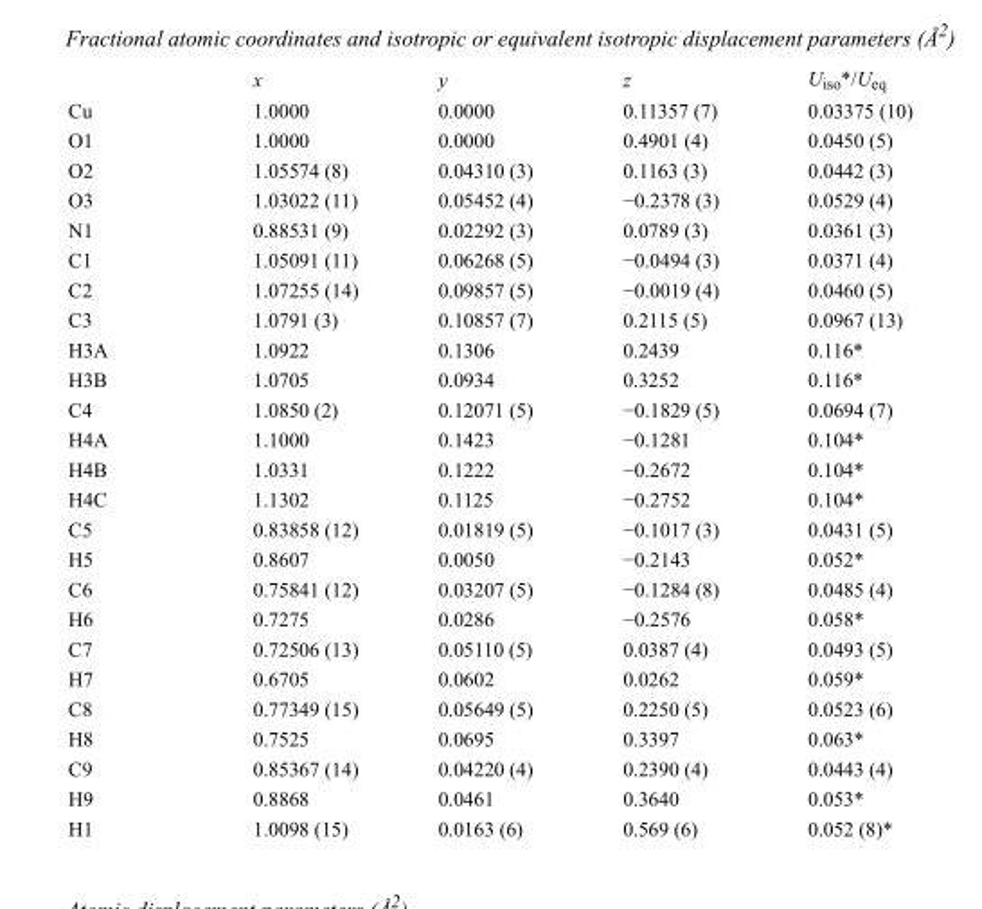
<table><thead><tr><td></td><td>x</td><td>y</td><td>z</td><td>U<sub>iso</sub>*/U<sub>eq</sub></td></tr></thead><tbody><tr><td>Cu</td><td>1.0000</td><td>0.0000</td><td>0.11357 (7)</td><td>0.03375 (10)</td></tr><tr><td>O1</td><td>1.0000</td><td>0.0000</td><td>0.4901 (4)</td><td>0.0450 (5)</td></tr><tr><td>O2</td><td>1.05574 (8)</td><td>0.04310 (3)</td><td>0.1163 (3)</td><td>0.0442 (3)</td></tr><tr><td>O3</td><td>1.03022 (11)</td><td>0.05452 (4)</td><td>−0.2378 (3)</td><td>0.0529 (4)</td></tr><tr><td>N1</td><td>0.88531 (9)</td><td>0.02292 (3)</td><td>0.0789 (3)</td><td>0.0361 (3)</td></tr><tr><td>C1</td><td>1.05091 (11)</td><td>0.06268 (5)</td><td>−0.0494 (3)</td><td>0.0371 (4)</td></tr><tr><td>C2</td><td>1.07255 (14)</td><td>0.09857 (5)</td><td>−0.0019 (4)</td><td>0.0460 (5)</td></tr><tr><td>C3</td><td>1.0791 (3)</td><td>0.10857 (7)</td><td>0.2115 (5)</td><td>0.0967 (13)</td></tr><tr><td>H3A</td><td>1.0922</td><td>0.1306</td><td>0.2439</td><td>0.116*</td></tr><tr><td>H3B</td><td>1.0705</td><td>0.0934</td><td>0.3252</td><td>0.116*</td></tr><tr><td>C4</td><td>1.0850 (2)</td><td>0.12071 (5)</td><td>−0.1829 (5)</td><td>0.0694 (7)</td></tr><tr><td>H4A</td><td>1.1000</td><td>0.1423</td><td>−0.1281</td><td>0.104*</td></tr><tr><td>H4B</td><td>1.0331</td><td>0.1222</td><td>−0.2672</td><td>0.104*</td></tr><tr><td>H4C</td><td>1.1302</td><td>0.1125</td><td>−0.2752</td><td>0.104*</td></tr><tr><td>C5</td><td>0.83858 (12)</td><td>0.01819 (5)</td><td>−0.1017 (3)</td><td>0.0431 (5)</td></tr><tr><td>H5</td><td>0.8607</td><td>0.0050</td><td>−0.2143</td><td>0.052*</td></tr><tr><td>C6</td><td>0.75841 (12)</td><td>0.03207 (5)</td><td>−0.1284 (8)</td><td>0.0485 (4)</td></tr><tr><td>H6</td><td>0.7275</td><td>0.0286</td><td>−0.2576</td><td>0.058*</td></tr><tr><td>C7</td><td>0.72506 (13)</td><td>0.05110 (5)</td><td>0.0387 (4)</td><td>0.0493 (5)</td></tr><tr><td>H7</td><td>0.6705</td><td>0.0602</td><td>0.0262</td><td>0.059*</td></tr><tr><td>C8</td><td>0.77349 (15)</td><td>0.05649 (5)</td><td>0.2250 (5)</td><td>0.0523 (6)</td></tr><tr><td>H8</td><td>0.7525</td><td>0.0695</td><td>0.3397</td><td>0.063*</td></tr><tr><td>C9</td><td>0.85367 (14)</td><td>0.04220 (4)</td><td>0.2390 (4)</td><td>0.0443 (4)</td></tr><tr><td>H9</td><td>0.8868</td><td>0.0461</td><td>0.3640</td><td>0.053*</td></tr><tr><td>H1</td><td>1.0098 (15)</td><td>0.0163 (6)</td><td>0.569 (6)</td><td>0.052 (8)*</td></tr></tbody></table>